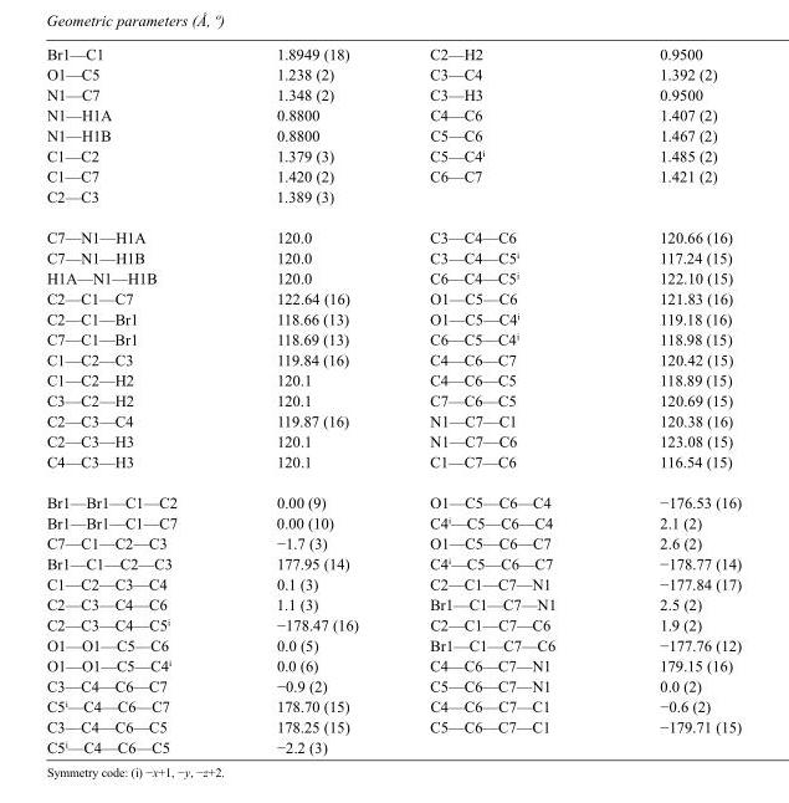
<table><tbody><tr><td>Br1—C1</td><td>1.8949 (18)</td><td>C2—H2</td><td>0.9500</td></tr><tr><td>O1—C5</td><td>1.238 (2)</td><td>C3—C4</td><td>1.392 (2)</td></tr><tr><td>N1—C7</td><td>1.348 (2)</td><td>C3—H3</td><td>0.9500</td></tr><tr><td>N1—H1A</td><td>0.8800</td><td>C4—C6</td><td>1.407 (2)</td></tr><tr><td>N1—H1B</td><td>0.8800</td><td>C5—C6</td><td>1.467 (2)</td></tr><tr><td>C1—C2</td><td>1.379 (3)</td><td>C5—C4<sup>i</sup></td><td>1.485 (2)</td></tr><tr><td>C1—C7</td><td>1.420 (2)</td><td>C6—C7</td><td>1.421 (2)</td></tr><tr><td>C2—C3</td><td>1.389 (3)</td><td></td><td></td></tr><tr><td>C7—N1—H1A</td><td>120.0</td><td>C3—C4—C6</td><td>120.66 (16)</td></tr><tr><td>C7—N1—H1B</td><td>120.0</td><td>C3—C4—C5<sup>i</sup></td><td>117.24 (15)</td></tr><tr><td>H1A—N1—H1B</td><td>120.0</td><td>C6—C4—C5<sup>i</sup></td><td>122.10 (15)</td></tr><tr><td>C2—C1—C7</td><td>122.64 (16)</td><td>O1—C5—C6</td><td>121.83 (16)</td></tr><tr><td>C2—C1—Br1</td><td>118.66 (13)</td><td>O1—C5—C4<sup>i</sup></td><td>119.18 (16)</td></tr><tr><td>C7—C1—Br1</td><td>118.69 (13)</td><td>C6—C5—C4<sup>i</sup></td><td>118.98 (15)</td></tr><tr><td>C1—C2—C3</td><td>119.84 (16)</td><td>C4—C6—C7</td><td>120.42 (15)</td></tr><tr><td>C1—C2—H2</td><td>120.1</td><td>C4—C6—C5</td><td>118.89 (15)</td></tr><tr><td>C3—C2—H2</td><td>120.1</td><td>C7—C6—C5</td><td>120.69 (15)</td></tr><tr><td>C2—C3—C4</td><td>119.87 (16)</td><td>N1—C7—C1</td><td>120.38 (16)</td></tr><tr><td>C2—C3—H3</td><td>120.1</td><td>N1—C7—C6</td><td>123.08 (15)</td></tr><tr><td>C4—C3—H3</td><td>120.1</td><td>C1—C7—C6</td><td>116.54 (15)</td></tr><tr><td>Br1—Br1—C1—C2</td><td>0.00 (9)</td><td>O1—C5—C6—C4</td><td>−176.53 (16)</td></tr><tr><td>Br1—Br1—C1—C7</td><td>0.00 (10)</td><td>C4<sup>i</sup>—C5—C6—C4</td><td>2.1 (2)</td></tr><tr><td>C7—C1—C2—C3</td><td>−1.7 (3)</td><td>O1—C5—C6—C7</td><td>2.6 (2)</td></tr><tr><td>Br1—C1—C2—C3</td><td>177.95 (14)</td><td>C4<sup>i</sup>—C5—C6—C7</td><td>−178.77 (14)</td></tr><tr><td>C1—C2—C3—C4</td><td>0.1 (3)</td><td>C2—C1—C7—N1</td><td>−177.84 (17)</td></tr><tr><td>C2—C3—C4—C6</td><td>1.1 (3)</td><td>Br1—C1—C7—N1</td><td>2.5 (2)</td></tr><tr><td>C2—C3—C4—C5<sup>i</sup></td><td>−178.47 (16)</td><td>C2—C1—C7—C6</td><td>1.9 (2)</td></tr><tr><td>O1—O1—C5—C6</td><td>0.0 (5)</td><td>Br1—C1—C7—C6</td><td>−177.76 (12)</td></tr><tr><td>O1—O1—C5—C4<sup>i</sup></td><td>0.0 (6)</td><td>C4—C6—C7—N1</td><td>179.15 (16)</td></tr><tr><td>C3—C4—C6—C7</td><td>−0.9 (2)</td><td>C5—C6—C7—N1</td><td>0.0 (2)</td></tr><tr><td>C5<sup>i</sup>—C4—C6—C7</td><td>178.70 (15)</td><td>C4—C6—C7—C1</td><td>−0.6 (2)</td></tr><tr><td>C3—C4—C6—C5</td><td>178.25 (15)</td><td>C5—C6—C7—C1</td><td>−179.71 (15)</td></tr><tr><td>C5<sup>i</sup>—C4—C6—C5</td><td>−2.2 (3)</td><td></td><td></td></tr></tbody></table>